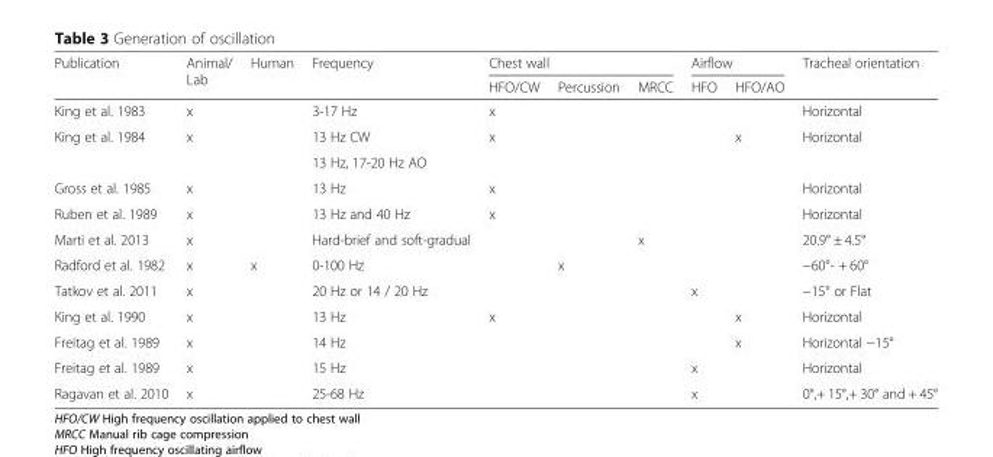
<table><thead><tr><td rowspan="2">Publication</td><td rowspan="2">Animal/ Lab</td><td rowspan="2">Human</td><td rowspan="2">Frequency</td><td colspan="3">Chest wall</td><td colspan="2">Airflow</td><td rowspan="2">Tracheal orientation</td></tr><tr><td>HFO/CW</td><td>Percussion</td><td>MRCC</td><td>HFO</td><td>HFO/AO</td></tr></thead><tbody><tr><td>King et al. 1983</td><td>x</td><td></td><td>3-17 Hz</td><td>x</td><td></td><td></td><td></td><td></td><td>Horizontal</td></tr><tr><td rowspan="2">King et al. 1984</td><td rowspan="2">x</td><td rowspan="2"></td><td>13 Hz CW</td><td rowspan="2">x</td><td rowspan="2"></td><td rowspan="2"></td><td rowspan="2"></td><td rowspan="2">x</td><td rowspan="2">Horizontal</td></tr><tr><td>13 Hz, 17-20 Hz AO</td></tr><tr><td>Gross et al. 1985</td><td>x</td><td></td><td>13 Hz</td><td>x</td><td></td><td></td><td></td><td></td><td>Horizontal</td></tr><tr><td>Ruben et al. 1989</td><td>x</td><td></td><td>13 Hz and 40 Hz</td><td>x</td><td></td><td></td><td></td><td></td><td>Horizontal</td></tr><tr><td>Marti et al. 2013</td><td>x</td><td></td><td>Hard-brief and soft-gradual</td><td></td><td></td><td>x</td><td></td><td></td><td>20.9° ± 4.5°</td></tr><tr><td>Radford et al. 1982</td><td>x</td><td>x</td><td>0-100 Hz</td><td></td><td>x</td><td></td><td></td><td></td><td>−60°- + 60°</td></tr><tr><td>Tatkov et al. 2011</td><td>x</td><td></td><td>20 Hz or 14 / 20 Hz</td><td></td><td></td><td></td><td>x</td><td></td><td>−15° or Flat</td></tr><tr><td>King et al. 1990</td><td>x</td><td></td><td>13 Hz</td><td>x</td><td></td><td></td><td></td><td>x</td><td>Horizontal</td></tr><tr><td>Freitag et al. 1989</td><td>x</td><td></td><td>14 Hz</td><td></td><td></td><td></td><td></td><td>x</td><td>Horizontal −15°</td></tr><tr><td>Freitag et al. 1989</td><td>x</td><td></td><td>15 Hz</td><td></td><td></td><td></td><td>x</td><td></td><td>Horizontal</td></tr><tr><td>Ragavan et al. 2010</td><td>x</td><td></td><td>25-68 Hz</td><td></td><td></td><td></td><td>x</td><td></td><td>0°,+ 15°,+ 30° and + 45°</td></tr></tbody></table>